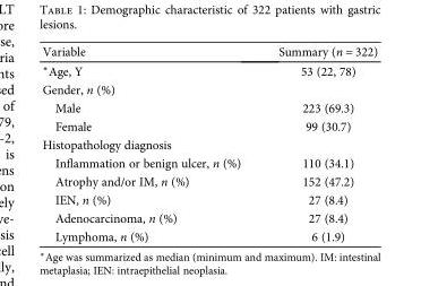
<table><thead><tr><td>Variable</td><td>Summary (n = 322)</td></tr></thead><tbody><tr><td>∗Age, Y</td><td>53 (22, 78)</td></tr><tr><td colspan="2">Gender, n (%)</td></tr><tr><td>Male</td><td>223 (69.3)</td></tr><tr><td>Female</td><td>99 (30.7)</td></tr><tr><td colspan="2">Histopathology diagnosis</td></tr><tr><td>Inflammation or benign ulcer, n (%)</td><td>110 (34.1)</td></tr><tr><td>Atrophy and/or IM, n (%)</td><td>152 (47.2)</td></tr><tr><td>IEN, n (%)</td><td>27 (8.4)</td></tr><tr><td>Adenocarcinoma, n (%)</td><td>27 (8.4)</td></tr><tr><td>Lymphoma, n (%)</td><td>6 (1.9)</td></tr></tbody></table>